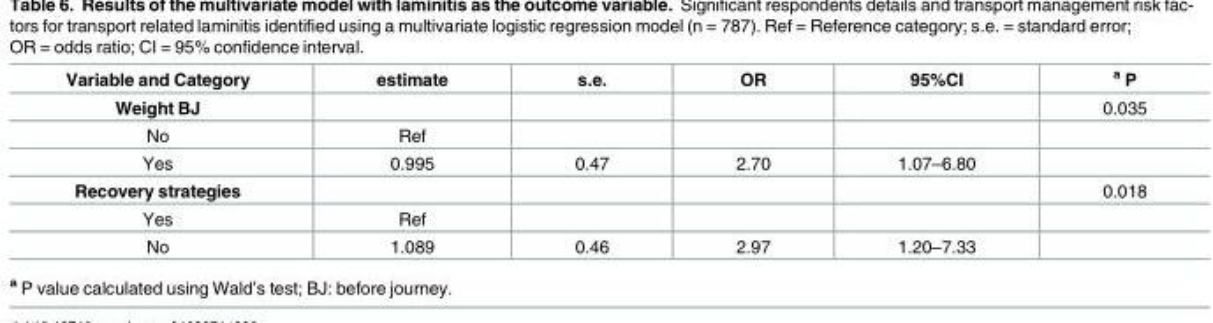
<table><thead><tr><td>Variable and Category</td><td>estimate</td><td>s.e.</td><td>OR</td><td>95%CI</td><td><sup>a</sup> P</td></tr></thead><tbody><tr><td>Weight BJ</td><td></td><td></td><td></td><td></td><td>0.035</td></tr><tr><td>No</td><td>Ref</td><td></td><td></td><td></td><td></td></tr><tr><td>Yes</td><td>0.995</td><td>0.47</td><td>2.70</td><td>1.07–6.80</td><td></td></tr><tr><td>Recovery strategies</td><td></td><td></td><td></td><td></td><td>0.018</td></tr><tr><td>Yes</td><td>Ref</td><td></td><td></td><td></td><td></td></tr><tr><td>No</td><td>1.089</td><td>0.46</td><td>2.97</td><td>1.20–7.33</td><td></td></tr></tbody></table>